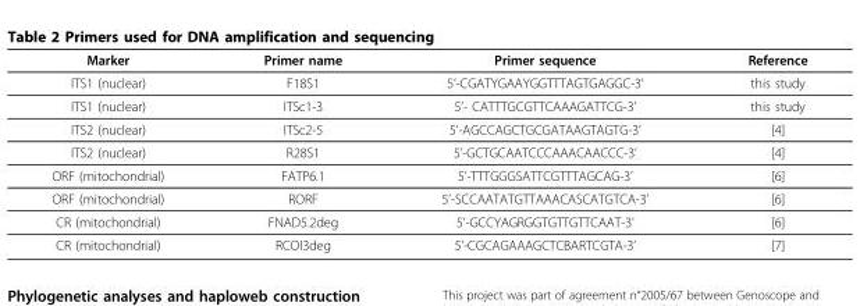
<table><thead><tr><td>Marker</td><td>Primer name</td><td>Primer sequence</td><td>Reference</td></tr></thead><tbody><tr><td>ITS1 (nuclear)</td><td>F18S1</td><td>5’-CGATYGAAYGGTTTAGTGAGGC-3’</td><td>this study</td></tr><tr><td>ITS1 (nuclear)</td><td>ITSc1-3</td><td>5’- CATTTGCGTTCAAAGATTCG-3’</td><td>this study</td></tr><tr><td>ITS2 (nuclear)</td><td>ITSc2-5</td><td>5’-AGCCAGCTGCGATAAGTAGTG-3’</td><td>[4]</td></tr><tr><td>ITS2 (nuclear)</td><td>R28S1</td><td>5’-GCTGCAATCCCAAACAACCC-3’</td><td>[4]</td></tr><tr><td>ORF (mitochondrial)</td><td>FATP6.1</td><td>5’-TTTGGGSATTCGTTTAGCAG-3’</td><td>[6]</td></tr><tr><td>ORF (mitochondrial)</td><td>RORF</td><td>5’-SCCAATATGTTAAACASCATGTCA-3’</td><td>[6]</td></tr><tr><td>CR (mitochondrial)</td><td>FNAD5.2deg</td><td>5’-GCCYAGRGGTGTTGTTCAAT-3’</td><td>[6]</td></tr><tr><td>CR (mitochondrial)</td><td>RCOI3deg</td><td>5’-CGCAGAAAGCTCBARTCGTA-3’</td><td>[7]</td></tr></tbody></table>